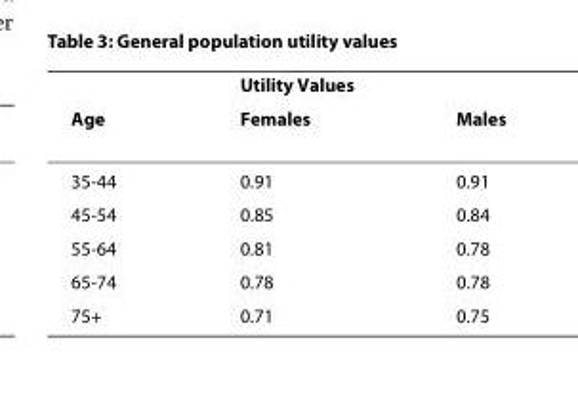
<table><thead><tr><td rowspan="2">Age</td><td colspan="2">Utility Values</td></tr><tr><td>Females</td><td>Males</td></tr></thead><tbody><tr><td>35-44</td><td>0.91</td><td>0.91</td></tr><tr><td>45-54</td><td>0.85</td><td>0.84</td></tr><tr><td>55-64</td><td>0.81</td><td>0.78</td></tr><tr><td>65-74</td><td>0.78</td><td>0.78</td></tr><tr><td>75+</td><td>0.71</td><td>0.75</td></tr></tbody></table>